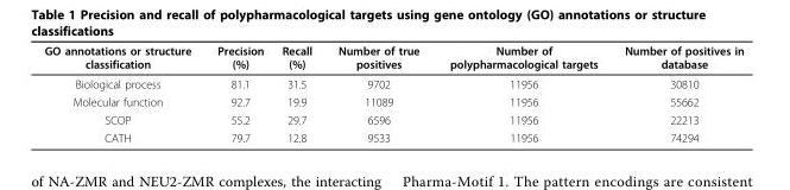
<table><thead><tr><td>GO annotations or structure classification</td><td>Precision (%)</td><td>Recall (%)</td><td>Number of true positives</td><td>Number of polypharmacological targets</td><td>Number of positives in database</td></tr></thead><tbody><tr><td>Biological process</td><td>81.1</td><td>31.5</td><td>9702</td><td>11956</td><td>30810</td></tr><tr><td>Molecular function</td><td>92.7</td><td>19.9</td><td>11089</td><td>11956</td><td>55662</td></tr><tr><td>SCOP</td><td>55.2</td><td>29.7</td><td>6596</td><td>11956</td><td>22213</td></tr><tr><td>CATH</td><td>79.7</td><td>12.8</td><td>9533</td><td>11956</td><td>74294</td></tr></tbody></table>